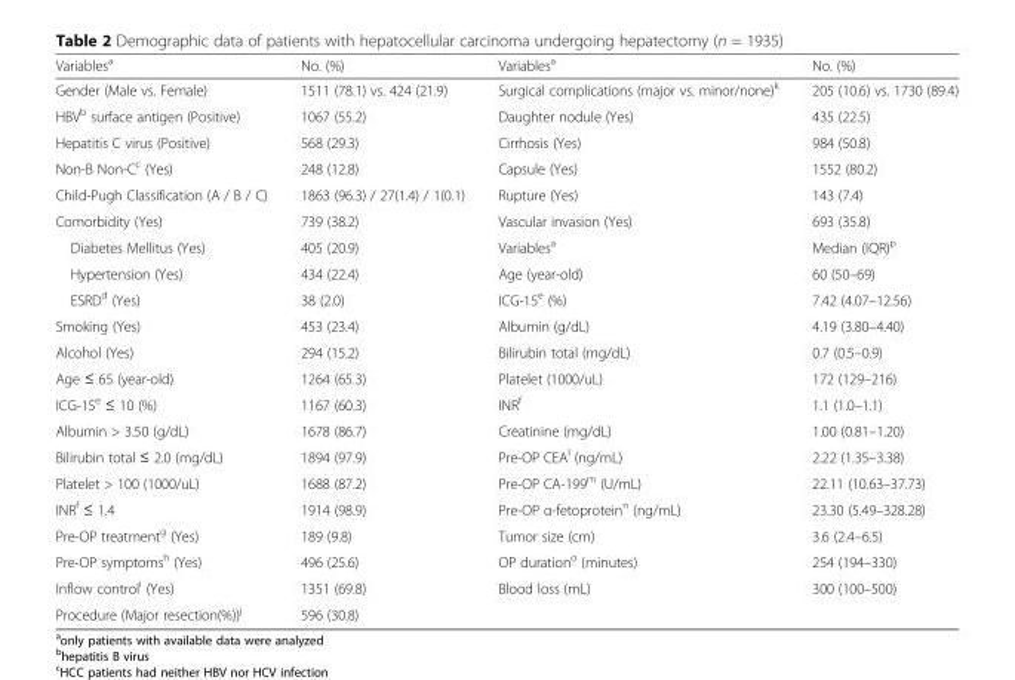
<table><thead><tr><td>Variables<sup>a</sup></td><td>No. (%)</td><td>Variables<sup>a</sup></td><td>No. (%)</td></tr></thead><tbody><tr><td>Gender (Male vs. Female)</td><td>1511 (78.1) vs. 424 (21.9)</td><td>Surgical complications (major vs. minor/none)<sup>k</sup></td><td>205 (10.6) vs. 1730 (89.4)</td></tr><tr><td>HBV<sup>b</sup> surface antigen (Positive)</td><td>1067 (55.2)</td><td>Daughter nodule (Yes)</td><td>435 (22.5)</td></tr><tr><td>Hepatitis C virus (Positive)</td><td>568 (29.3)</td><td>Cirrhosis (Yes)</td><td>984 (50.8)</td></tr><tr><td>Non-B Non-C<sup>c</sup> (Yes)</td><td>248 (12.8)</td><td>Capsule (Yes)</td><td>1552 (80.2)</td></tr><tr><td>Child-Pugh Classification (A / B / C)</td><td>1863 (96.3) / 27(1.4) / 1(0.1)</td><td>Rupture (Yes)</td><td>143 (7.4)</td></tr><tr><td>Comorbidity (Yes)</td><td>739 (38.2)</td><td>Vascular invasion (Yes)</td><td>693 (35.8)</td></tr><tr><td>Diabetes Mellitus (Yes)</td><td>405 (20.9)</td><td>Variables<sup>a</sup></td><td>Median (IQR)<sup>p</sup></td></tr><tr><td>Hypertension (Yes)</td><td>434 (22.4)</td><td>Age (year-old)</td><td>60 (50–69)</td></tr><tr><td>ESRD<sup>d</sup> (Yes)</td><td>38 (2.0)</td><td>ICG-15<sup>e</sup> (%)</td><td>7.42 (4.07–12.56)</td></tr><tr><td>Smoking (Yes)</td><td>453 (23.4)</td><td>Albumin (g/dL)</td><td>4.19 (3.80–4.40)</td></tr><tr><td>Alcohol (Yes)</td><td>294 (15.2)</td><td>Bilirubin total (mg/dL)</td><td>0.7 (0.5–0.9)</td></tr><tr><td>Age ≤ 65 (year-old)</td><td>1264 (65.3)</td><td>Platelet (1000/uL)</td><td>172 (129–216)</td></tr><tr><td>ICG-15<sup>e</sup> ≤ 10 (%)</td><td>1167 (60.3)</td><td>INR<sup>f</sup></td><td>1.1 (1.0–1.1)</td></tr><tr><td>Albumin &gt; 3.50 (g/dL)</td><td>1678 (86.7)</td><td>Creatinine (mg/dL)</td><td>1.00 (0.81–1.20)</td></tr><tr><td>Bilirubin total ≤ 2.0 (mg/dL)</td><td>1894 (97.9)</td><td>Pre-OP CEA<sup>l</sup> (ng/mL)</td><td>2.22 (1.35–3.38)</td></tr><tr><td>Platelet &gt; 100 (1000/uL)</td><td>1688 (87.2)</td><td>Pre-OP CA-199<sup>m</sup> (U/mL)</td><td>22.11 (10.63–37.73)</td></tr><tr><td>INR<sup>f</sup> ≤ 1.4</td><td>1914 (98.9)</td><td>Pre-OP α-fetoprotein<sup>n</sup> (ng/mL)</td><td>23.30 (5.49–328.28)</td></tr><tr><td>Pre-OP treatment<sup>g</sup> (Yes)</td><td>189 (9.8)</td><td>Tumor size (cm)</td><td>3.6 (2.4–6.5)</td></tr><tr><td>Pre-OP symptoms<sup>h</sup> (Yes)</td><td>496 (25.6)</td><td>OP duration<sup>o</sup> (minutes)</td><td>254 (194–330)</td></tr><tr><td>Inflow control<sup>i</sup> (Yes)</td><td>1351 (69.8)</td><td>Blood loss (mL)</td><td>300 (100–500)</td></tr><tr><td>Procedure (Major resection(%))<sup>j</sup></td><td>596 (30.8)</td><td></td><td></td></tr></tbody></table>